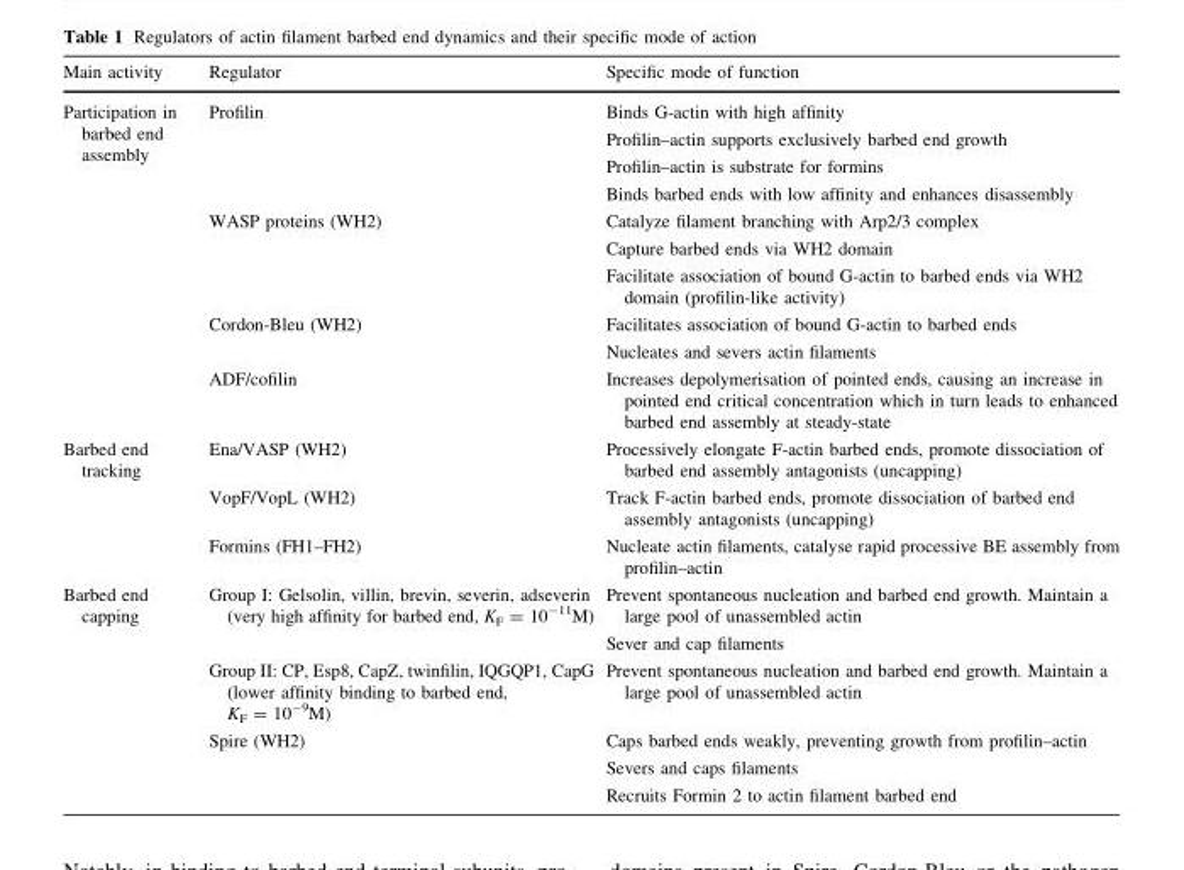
<table><thead><tr><td>Main activity</td><td>Regulator</td><td>Specific mode of function</td></tr></thead><tbody><tr><td rowspan="4">Participation in barbed end assembly</td><td>Profilin</td><td>Binds G-actin with high affinity Profilin–actin supports exclusively barbed end growth Profilin–actin is substrate for formins Binds barbed ends with low affinity and enhances disassembly</td></tr><tr><td>WASP proteins (WH2)</td><td>Catalyze filament branching with Arp2/3 complex Capture barbed ends via WH2 domain Facilitate association of bound G-actin to barbed ends via WH2 domain (profilin-like activity)</td></tr><tr><td>Cordon-Bleu (WH2)</td><td>Facilitates association of bound G-actin to barbed ends Nucleates and severs actin filaments</td></tr><tr><td>ADF/cofilin</td><td>Increases depolymerisation of pointed ends, causing an increase in pointed end critical concentration which in turn leads to enhanced barbed end assembly at steady-state</td></tr><tr><td rowspan="3">Barbed end tracking</td><td>Ena/VASP (WH2)</td><td>Processively elongate F-actin barbed ends, promote dissociation of barbed end assembly antagonists (uncapping)</td></tr><tr><td>VopF/VopL (WH2)</td><td>Track F-actin barbed ends, promote dissociation of barbed end assembly antagonists (uncapping)</td></tr><tr><td>Formins (FH1–FH2)</td><td>Nucleate actin filaments, catalyse rapid processive BE assembly from profilin–actin</td></tr><tr><td rowspan="3">Barbed end capping</td><td>Group I: Gelsolin, villin, brevin, severin, adseverin (very high affinity for barbed end, K<sub>F</sub> = 10<sup>-11</sup>M)</td><td>Prevent spontaneous nucleation and barbed end growth. Maintain a large pool of unassembled actin Sever and cap filaments</td></tr><tr><td>Group II: CP, Esp8, CapZ, twinfilin, IQGQP1, CapG (lower affinity binding to barbed end, K<sub>F</sub> = 10<sup>-9</sup>M)</td><td>Prevent spontaneous nucleation and barbed end growth. Maintain a large pool of unassembled actin</td></tr><tr><td>Spire (WH2)</td><td>Caps barbed ends weakly, preventing growth from profilin–actin Severs and caps filaments Recruits Formin 2 to actin filament barbed end</td></tr></tbody></table>